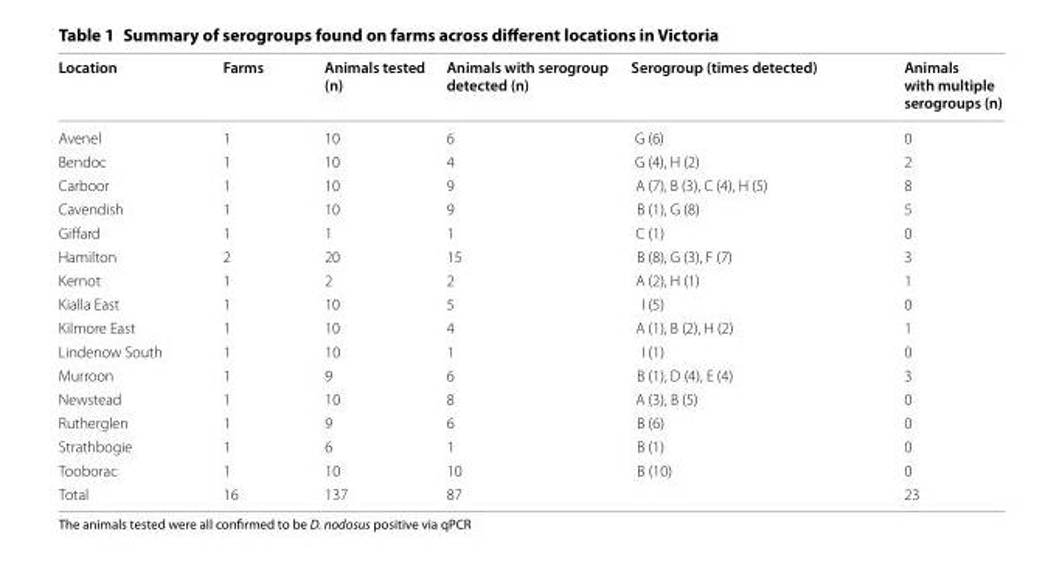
<table><thead><tr><td>Location</td><td>Farms</td><td>Animals tested (n)</td><td>Animals with serogroup detected (n)</td><td>Serogroup (times detected)</td><td>Animals with multiple serogroups (n)</td></tr></thead><tbody><tr><td>Avenel</td><td>1</td><td>10</td><td>6</td><td>G (6)</td><td>0</td></tr><tr><td>Bendoc</td><td>1</td><td>10</td><td>4</td><td>G (4), H (2)</td><td>2</td></tr><tr><td>Carboor</td><td>1</td><td>10</td><td>9</td><td>A (7), B (3), C (4), H (5)</td><td>8</td></tr><tr><td>Cavendish</td><td>1</td><td>10</td><td>9</td><td>B (1), G (8)</td><td>5</td></tr><tr><td>Giffard</td><td>1</td><td>1</td><td>1</td><td>C (1)</td><td>0</td></tr><tr><td>Hamilton</td><td>2</td><td>20</td><td>15</td><td>B (8), G (3), F (7)</td><td>3</td></tr><tr><td>Kernot</td><td>1</td><td>2</td><td>2</td><td>A (2), H (1)</td><td>1</td></tr><tr><td>Kialla East</td><td>1</td><td>10</td><td>5</td><td>I (5)</td><td>0</td></tr><tr><td>Kilmore East</td><td>1</td><td>10</td><td>4</td><td>A (1), B (2), H (2)</td><td>1</td></tr><tr><td>Lindenow South</td><td>1</td><td>10</td><td>1</td><td>I (1)</td><td>0</td></tr><tr><td>Murroon</td><td>1</td><td>9</td><td>6</td><td>B (1), D (4), E (4)</td><td>3</td></tr><tr><td>Newstead</td><td>1</td><td>10</td><td>8</td><td>A (3), B (5)</td><td>0</td></tr><tr><td>Rutherglen</td><td>1</td><td>9</td><td>6</td><td>B (6)</td><td>0</td></tr><tr><td>Strathbogie</td><td>1</td><td>6</td><td>1</td><td>B (1)</td><td>0</td></tr><tr><td>Tooborac</td><td>1</td><td>10</td><td>10</td><td>B (10)</td><td>0</td></tr><tr><td>Total</td><td>16</td><td>137</td><td>87</td><td></td><td>23</td></tr></tbody></table>